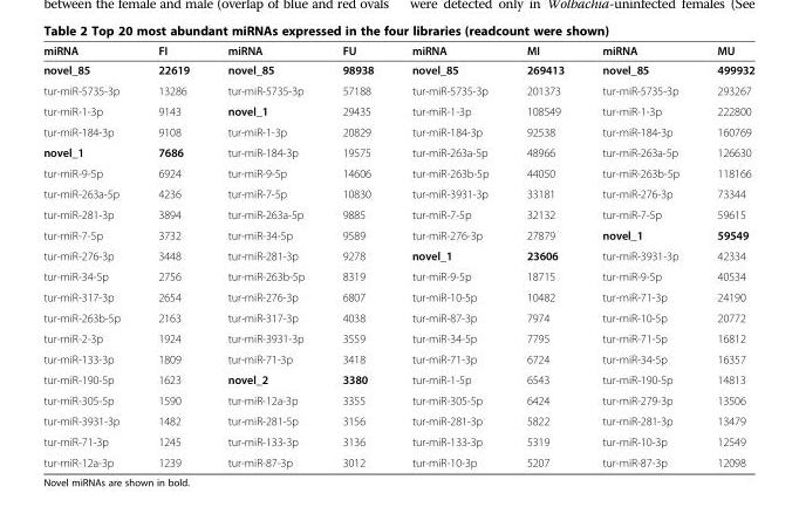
<table><thead><tr><td>miRNA</td><td>FI</td><td>miRNA</td><td>FU</td><td>miRNA</td><td>MI</td><td>miRNA</td><td>MU</td></tr></thead><tbody><tr><td>novel_85</td><td>22619</td><td>novel_85</td><td>98938</td><td>novel_85</td><td>269413</td><td>novel_85</td><td>499932</td></tr><tr><td>tur-miR-5735-3p</td><td>13286</td><td>tur-miR-5735-3p</td><td>57188</td><td>tur-miR-5735-3p</td><td>201373</td><td>tur-miR-5735-3p</td><td>293267</td></tr><tr><td>tur-miR-1-3p</td><td>9143</td><td>novel_1</td><td>29435</td><td>tur-miR-1-3p</td><td>108549</td><td>tur-miR-1-3p</td><td>222800</td></tr><tr><td>tur-miR-184-3p</td><td>9108</td><td>tur-miR-1-3p</td><td>20829</td><td>tur-miR-184-3p</td><td>92538</td><td>tur-miR-184-3p</td><td>160769</td></tr><tr><td>novel_1</td><td>7686</td><td>tur-miR-184-3p</td><td>19575</td><td>tur-miR-263a-5p</td><td>48966</td><td>tur-miR-263a-5p</td><td>126630</td></tr><tr><td>tur-miR-9-5p</td><td>6924</td><td>tur-miR-9-5p</td><td>14606</td><td>tur-miR-263b-5p</td><td>44050</td><td>tur-miR-263b-5p</td><td>118166</td></tr><tr><td>tur-miR-263a-5p</td><td>4236</td><td>tur-miR-7-5p</td><td>10830</td><td>tur-miR-3931-3p</td><td>33181</td><td>tur-miR-276-3p</td><td>73344</td></tr><tr><td>tur-miR-281-3p</td><td>3894</td><td>tur-miR-263a-5p</td><td>9885</td><td>tur-miR-7-5p</td><td>32132</td><td>tur-miR-7-5p</td><td>59615</td></tr><tr><td>tur-miR-7-5p</td><td>3732</td><td>tur-miR-34-5p</td><td>9589</td><td>tur-miR-276-3p</td><td>27879</td><td>novel_1</td><td>59549</td></tr><tr><td>tur-miR-276-3p</td><td>3448</td><td>tur-miR-281-3p</td><td>9278</td><td>novel_1</td><td>23606</td><td>tur-miR-3931-3p</td><td>42334</td></tr><tr><td>tur-miR-34-5p</td><td>2756</td><td>tur-miR-263b-5p</td><td>8319</td><td>tur-miR-9-5p</td><td>18715</td><td>tur-miR-9-5p</td><td>40534</td></tr><tr><td>tur-miR-317-3p</td><td>2654</td><td>tur-miR-276-3p</td><td>6807</td><td>tur-miR-10-5p</td><td>10482</td><td>tur-miR-71-3p</td><td>24190</td></tr><tr><td>tur-miR-263b-5p</td><td>2163</td><td>tur-miR-317-3p</td><td>4038</td><td>tur-miR-87-3p</td><td>7974</td><td>tur-miR-10-5p</td><td>20772</td></tr><tr><td>tur-miR-2-3p</td><td>1924</td><td>tur-miR-3931-3p</td><td>3559</td><td>tur-miR-34-5p</td><td>7795</td><td>tur-miR-71-5p</td><td>16812</td></tr><tr><td>tur-miR-133-3p</td><td>1809</td><td>tur-miR-71-3p</td><td>3418</td><td>tur-miR-71-3p</td><td>6724</td><td>tur-miR-34-5p</td><td>16357</td></tr><tr><td>tur-miR-190-5p</td><td>1623</td><td>novel_2</td><td>3380</td><td>tur-miR-1-5p</td><td>6543</td><td>tur-miR-190-5p</td><td>14813</td></tr><tr><td>tur-miR-305-5p</td><td>1590</td><td>tur-miR-12a-3p</td><td>3355</td><td>tur-miR-305-5p</td><td>6424</td><td>tur-miR-279-3p</td><td>13506</td></tr><tr><td>tur-miR-3931-3p</td><td>1482</td><td>tur-miR-281-5p</td><td>3156</td><td>tur-miR-281-3p</td><td>5822</td><td>tur-miR-281-3p</td><td>13479</td></tr><tr><td>tur-miR-71-3p</td><td>1245</td><td>tur-miR-133-3p</td><td>3136</td><td>tur-miR-133-3p</td><td>5319</td><td>tur-miR-10-3p</td><td>12549</td></tr><tr><td>tur-miR-12a-3p</td><td>1239</td><td>tur-miR-87-3p</td><td>3012</td><td>tur-miR-10-3p</td><td>5207</td><td>tur-miR-87-3p</td><td>12098</td></tr></tbody></table>